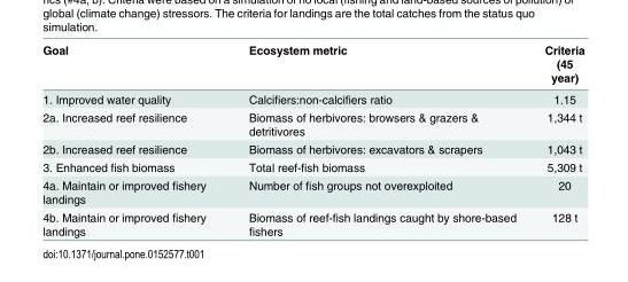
<table><thead><tr><td rowspan="2">Goal</td><td rowspan="2">Ecosystem metric</td><td rowspan="2">Criteria (45 year)</td></tr><tr></tr></thead><tbody><tr><td>1. Improved water quality</td><td>Calcifiers:non-calcifiers ratio</td><td>1.15</td></tr><tr><td>2a. Increased reef resilience</td><td>Biomass of herbivores: browsers &amp; grazers &amp; detritivores</td><td>1,344 t</td></tr><tr><td>2b. Increased reef resilience</td><td>Biomass of herbivores: excavators &amp; scrapers</td><td>1,043 t</td></tr><tr><td>3. Enhanced fish biomass</td><td>Total reef-fish biomass</td><td>5,309 t</td></tr><tr><td>4a. Maintain or improved fishery landings</td><td>Number of fish groups not overexploited</td><td>20</td></tr><tr><td>4b. Maintain or improved fishery landings</td><td>Biomass of reef-fish landings caught by shore-based fishers</td><td>128 t</td></tr></tbody></table>